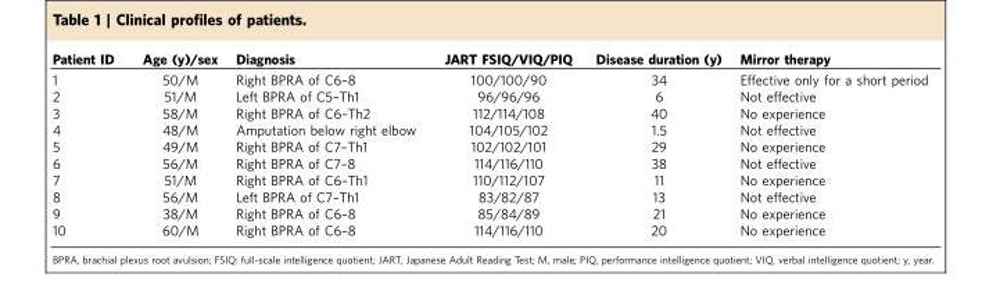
<table><thead><tr><td>Patient ID</td><td>Age (y)/sex</td><td>Diagnosis</td><td>JART FSIQ/VIQ/PIQ</td><td>Disease duration (y)</td><td>Mirror therapy</td></tr></thead><tbody><tr><td>1</td><td>50/M</td><td>Right BPRA of C6–8</td><td>100/100/90</td><td>34</td><td>Effective only for a short period</td></tr><tr><td>2</td><td>51/M</td><td>Left BPRA of C5–Th1</td><td>96/96/96</td><td>6</td><td>Not effective</td></tr><tr><td>3</td><td>58/M</td><td>Right BPRA of C6–Th2</td><td>112/114/108</td><td>40</td><td>No experience</td></tr><tr><td>4</td><td>48/M</td><td>Amputation below right elbow</td><td>104/105/102</td><td>1.5</td><td>Not effective</td></tr><tr><td>5</td><td>49/M</td><td>Right BPRA of C7–Th1</td><td>102/102/101</td><td>29</td><td>No experience</td></tr><tr><td>6</td><td>56/M</td><td>Right BPRA of C7–8</td><td>114/116/110</td><td>38</td><td>Not effective</td></tr><tr><td>7</td><td>51/M</td><td>Right BPRA of C6–Th1</td><td>110/112/107</td><td>11</td><td>No experience</td></tr><tr><td>8</td><td>56/M</td><td>Left BPRA of C7–Th1</td><td>83/82/87</td><td>13</td><td>Not effective</td></tr><tr><td>9</td><td>38/M</td><td>Right BPRA of C6–8</td><td>85/84/89</td><td>21</td><td>No experience</td></tr><tr><td>10</td><td>60/M</td><td>Right BPRA of C6–8</td><td>114/116/110</td><td>20</td><td>No experience</td></tr></tbody></table>